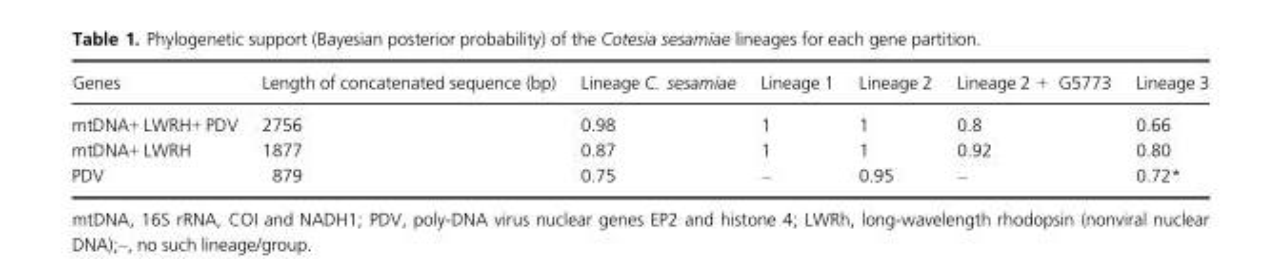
<table><thead><tr><td>Genes</td><td>Length of concatenated sequence (bp)</td><td>Lineage C. sesamiae</td><td>Lineage 1</td><td>Lineage 2</td><td>Lineage 2 + G5773</td><td>Lineage 3</td></tr></thead><tbody><tr><td>mtDNA+ LWRH+ PDV</td><td>2756</td><td>0.98</td><td>1</td><td>1</td><td>0.8</td><td>0.66</td></tr><tr><td>mtDNA+ LWRH</td><td>1877</td><td>0.87</td><td>1</td><td>1</td><td>0.92</td><td>0.80</td></tr><tr><td>PDV</td><td>879</td><td>0.75</td><td>–</td><td>0.95</td><td>–</td><td>0.72*</td></tr></tbody></table>